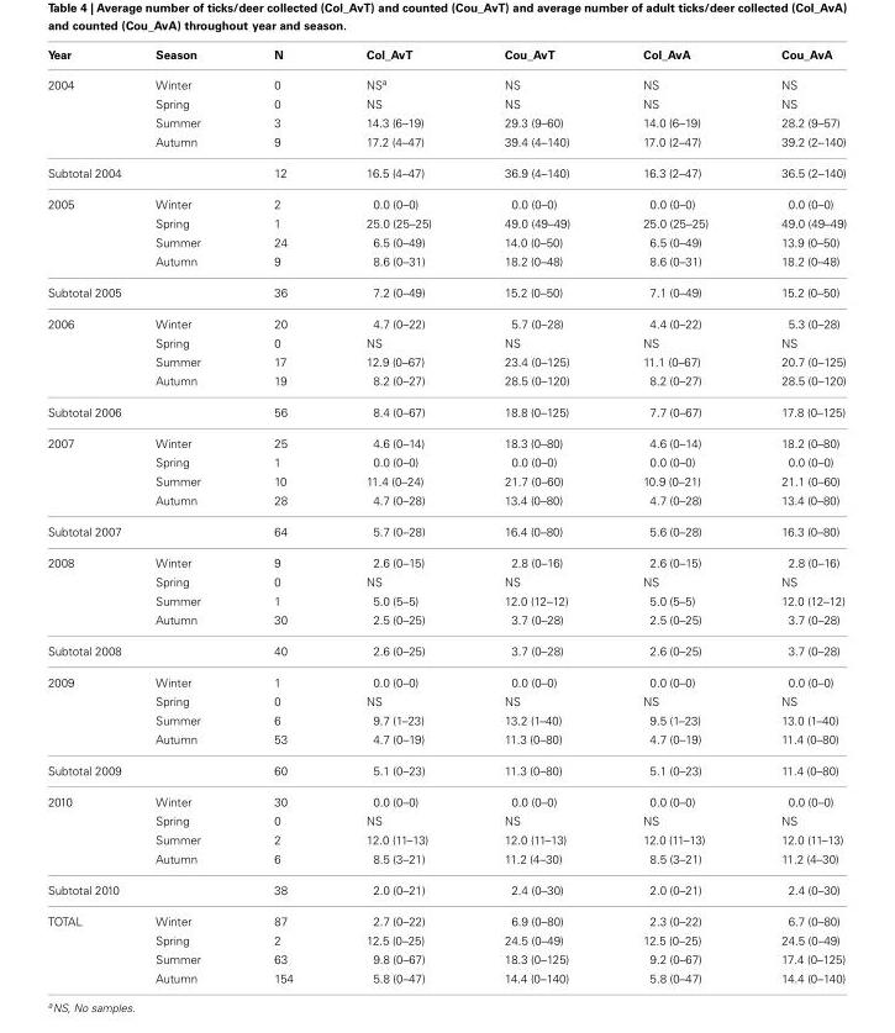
<table><thead><tr><td>Year</td><td>Season</td><td>N</td><td>Col_AvT</td><td>Cou_AvT</td><td>Col_AvA</td><td>Cou_AvA</td></tr></thead><tbody><tr><td rowspan="4">2004</td><td>Winter</td><td>0</td><td>NS<sup>a</sup></td><td>NS</td><td>NS</td><td>NS</td></tr><tr><td>Spring</td><td>0</td><td>NS</td><td>NS</td><td>NS</td><td>NS</td></tr><tr><td>Summer</td><td>3</td><td>14.3 (6–19)</td><td>29.3 (9–60)</td><td>14.0 (6–19)</td><td>28.2 (9–57)</td></tr><tr><td>Autumn</td><td>9</td><td>17.2 (4–47)</td><td>39.4 (4–140)</td><td>17.0 (2–47)</td><td>39.2 (2–140)</td></tr><tr><td colspan="2">Subtotal 2004</td><td>12</td><td>16.5 (4–47)</td><td>36.9 (4–140)</td><td>16.3 (2–47)</td><td>36.5 (2–140)</td></tr><tr><td rowspan="4">2005</td><td>Winter</td><td>2</td><td>0.0 (0–0)</td><td>0.0 (0–0)</td><td>0.0 (0–0)</td><td>0.0 (0–0)</td></tr><tr><td>Spring</td><td>1</td><td>25.0 (25–25)</td><td>49.0 (49–49)</td><td>25.0 (25–25)</td><td>49.0 (49–49)</td></tr><tr><td>Summer</td><td>24</td><td>6.5 (0–49)</td><td>14.0 (0–50)</td><td>6.5 (0–49)</td><td>13.9 (0–50)</td></tr><tr><td>Autumn</td><td>9</td><td>8.6 (0–31)</td><td>18.2 (0–48)</td><td>8.6 (0–31)</td><td>18.2 (0–48)</td></tr><tr><td colspan="2">Subtotal 2005</td><td>36</td><td>7.2 (0–49)</td><td>15.2 (0–50)</td><td>7.1 (0–49)</td><td>15.2 (0–50)</td></tr><tr><td rowspan="4">2006</td><td>Winter</td><td>20</td><td>4.7 (0–22)</td><td>5.7 (0–28)</td><td>4.4 (0–22)</td><td>5.3 (0–28)</td></tr><tr><td>Spring</td><td>0</td><td>NS</td><td>NS</td><td>NS</td><td>NS</td></tr><tr><td>Summer</td><td>17</td><td>12.9 (0–67)</td><td>23.4 (0–125)</td><td>11.1 (0–67)</td><td>20.7 (0–125)</td></tr><tr><td>Autumn</td><td>19</td><td>8.2 (0–27)</td><td>28.5 (0–120)</td><td>8.2 (0–27)</td><td>28.5 (0–120)</td></tr><tr><td colspan="2">Subtotal 2006</td><td>56</td><td>8.4 (0–67)</td><td>18.8 (0–125)</td><td>7.7 (0–67)</td><td>17.8 (0–125)</td></tr><tr><td rowspan="4">2007</td><td>Winter</td><td>25</td><td>4.6 (0–14)</td><td>18.3 (0–80)</td><td>4.6 (0–14)</td><td>18.2 (0–80)</td></tr><tr><td>Spring</td><td>1</td><td>0.0 (0–0)</td><td>0.0 (0–0)</td><td>0.0 (0–0)</td><td>0.0 (0–0)</td></tr><tr><td>Summer</td><td>10</td><td>11.4 (0–24)</td><td>21.7 (0–60)</td><td>10.9 (0–21)</td><td>21.1 (0–60)</td></tr><tr><td>Autumn</td><td>28</td><td>4.7 (0–28)</td><td>13.4 (0–80)</td><td>4.7 (0–28)</td><td>13.4 (0–80)</td></tr><tr><td colspan="2">Subtotal 2007</td><td>64</td><td>5.7 (0–28)</td><td>16.4 (0–80)</td><td>5.6 (0–28)</td><td>16.3 (0–80)</td></tr><tr><td rowspan="4">2008</td><td>Winter</td><td>9</td><td>2.6 (0–15)</td><td>2.8 (0–16)</td><td>2.6 (0–15)</td><td>2.8 (0–16)</td></tr><tr><td>Spring</td><td>0</td><td>NS</td><td>NS</td><td>NS</td><td>NS</td></tr><tr><td>Summer</td><td>1</td><td>5.0 (5–5)</td><td>12.0 (12–12)</td><td>5.0 (5–5)</td><td>12.0 (12–12)</td></tr><tr><td>Autumn</td><td>30</td><td>2.5 (0–25)</td><td>3.7 (0–28)</td><td>2.5 (0–25)</td><td>3.7 (0–28)</td></tr><tr><td colspan="2">Subtotal 2008</td><td>40</td><td>2.6 (0–25)</td><td>3.7 (0–28)</td><td>2.6 (0–25)</td><td>3.7 (0–28)</td></tr><tr><td rowspan="4">2009</td><td>Winter</td><td>1</td><td>0.0 (0–0)</td><td>0.0 (0–0)</td><td>0.0 (0–0)</td><td>0.0 (0–0)</td></tr><tr><td>Spring</td><td>0</td><td>NS</td><td>NS</td><td>NS</td><td>NS</td></tr><tr><td>Summer</td><td>6</td><td>9.7 (1–23)</td><td>13.2 (1–40)</td><td>9.5 (1–23)</td><td>13.0 (1–40)</td></tr><tr><td>Autumn</td><td>53</td><td>4.7 (0–19)</td><td>11.3 (0–80)</td><td>4.7 (0–19)</td><td>11.4 (0–80)</td></tr><tr><td colspan="2">Subtotal 2009</td><td>60</td><td>5.1 (0–23)</td><td>11.3 (0–80)</td><td>5.1 (0–23)</td><td>11.4 (0–80)</td></tr><tr><td rowspan="4">2010</td><td>Winter</td><td>30</td><td>0.0 (0–0)</td><td>0.0 (0–0)</td><td>0.0 (0–0)</td><td>0.0 (0–0)</td></tr><tr><td>Spring</td><td>0</td><td>NS</td><td>NS</td><td>NS</td><td>NS</td></tr><tr><td>Summer</td><td>2</td><td>12.0 (11–13)</td><td>12.0 (11–13)</td><td>12.0 (11–13)</td><td>12.0 (11–13)</td></tr><tr><td>Autumn</td><td>6</td><td>8.5 (3–21)</td><td>11.2 (4–30)</td><td>8.5 (3–21)</td><td>11.2 (4–30)</td></tr><tr><td colspan="2">Subtotal 2010</td><td>38</td><td>2.0 (0–21)</td><td>2.4 (0–30)</td><td>2.0 (0–21)</td><td>2.4 (0–30)</td></tr><tr><td rowspan="4">TOTAL</td><td>Winter</td><td>87</td><td>2.7 (0–22)</td><td>6.9 (0–80)</td><td>2.3 (0–22)</td><td>6.7 (0–80)</td></tr><tr><td>Spring</td><td>2</td><td>12.5 (0–25)</td><td>24.5 (0–49)</td><td>12.5 (0–25)</td><td>24.5 (0–49)</td></tr><tr><td>Summer</td><td>63</td><td>9.8 (0–67)</td><td>18.3 (0–125)</td><td>9.2 (0–67)</td><td>17.4 (0–125)</td></tr><tr><td>Autumn</td><td>154</td><td>5.8 (0–47)</td><td>14.4 (0–140)</td><td>5.8 (0–47)</td><td>14.4 (0–140)</td></tr></tbody></table>